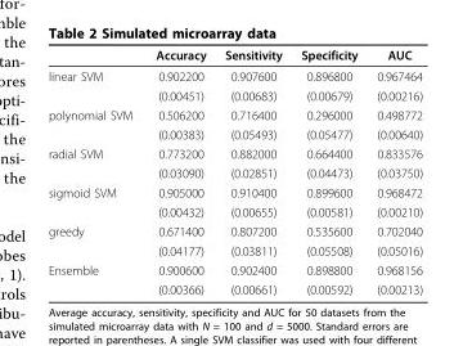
<table><thead><tr><td></td><td>Accuracy</td><td>Sensitivity</td><td>Specificity</td><td>AUC</td></tr></thead><tbody><tr><td rowspan="2">linear SVM</td><td>0.902200</td><td>0.907600</td><td>0.896800</td><td>0.967464</td></tr><tr><td>(0.00451)</td><td>(0.00683)</td><td>(0.00679)</td><td>(0.00216)</td></tr><tr><td rowspan="2">polynomial SVM</td><td>0.506200</td><td>0.716400</td><td>0.296000</td><td>0.498772</td></tr><tr><td>(0.00383)</td><td>(0.05493)</td><td>(0.05477)</td><td>(0.00640)</td></tr><tr><td rowspan="2">radial SVM</td><td>0.773200</td><td>0.882000</td><td>0.664400</td><td>0.833576</td></tr><tr><td>(0.03090)</td><td>(0.02851)</td><td>(0.04473)</td><td>(0.03750)</td></tr><tr><td rowspan="2">sigmoid SVM</td><td>0.905000</td><td>0.910400</td><td>0.899600</td><td>0.968472</td></tr><tr><td>(0.00432)</td><td>(0.00655)</td><td>(0.00581)</td><td>(0.00210)</td></tr><tr><td rowspan="2">greedy</td><td>0.671400</td><td>0.807200</td><td>0.535600</td><td>0.702040</td></tr><tr><td>(0.04177)</td><td>(0.03811)</td><td>(0.05508)</td><td>(0.05016)</td></tr><tr><td rowspan="2">Ensemble</td><td>0.900600</td><td>0.902400</td><td>0.898800</td><td>0.968156</td></tr><tr><td>(0.00366)</td><td>(0.00661)</td><td>(0.00592)</td><td>(0.00213)</td></tr></tbody></table>